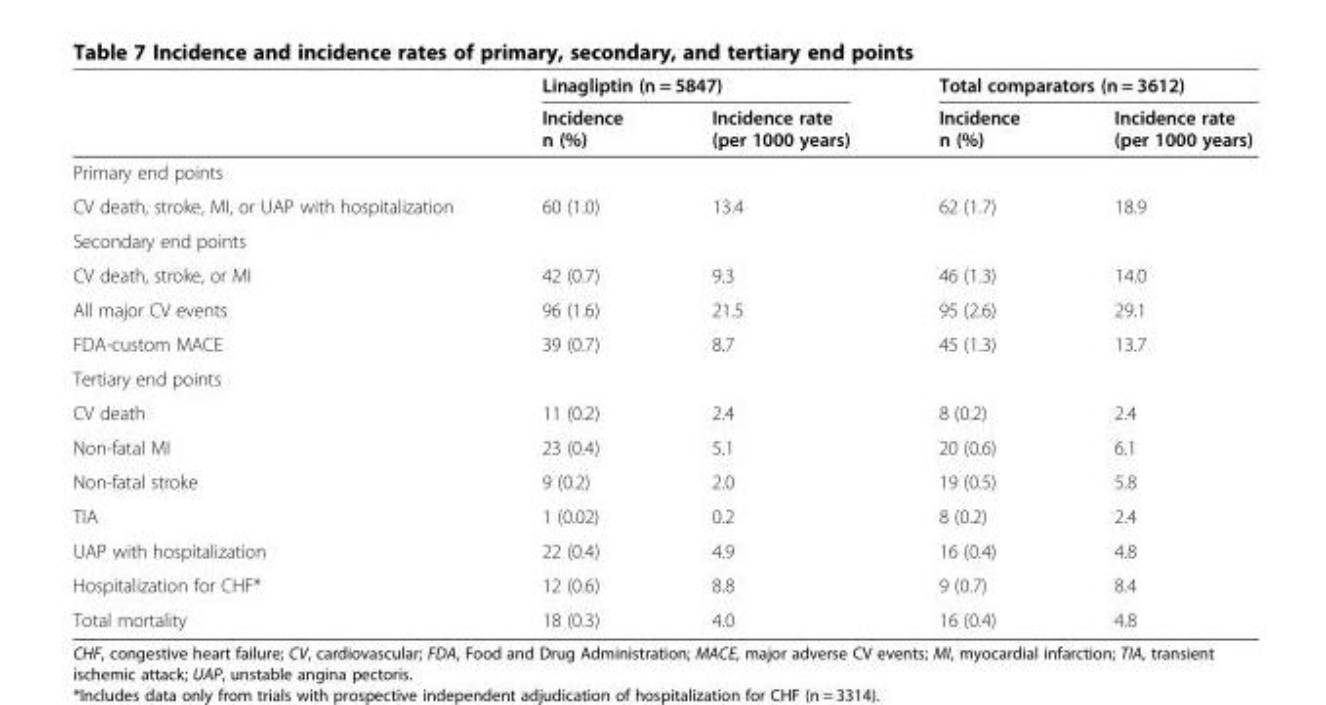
<table><thead><tr><td rowspan="2"></td><td colspan="2">Linagliptin (n = 5847)</td><td colspan="2">Total comparators (n = 3612)</td></tr><tr><td>Incidence n (%)</td><td>Incidence rate (per 1000 years)</td><td>Incidence n (%)</td><td>Incidence rate (per 1000 years)</td></tr></thead><tbody><tr><td colspan="5">Primary end points</td></tr><tr><td>CV death, stroke, MI, or UAP with hospitalization</td><td>60 (1.0)</td><td>13.4</td><td>62 (1.7)</td><td>18.9</td></tr><tr><td colspan="5">Secondary end points</td></tr><tr><td>CV death, stroke, or MI</td><td>42 (0.7)</td><td>9.3</td><td>46 (1.3)</td><td>14.0</td></tr><tr><td>All major CV events</td><td>96 (1.6)</td><td>21.5</td><td>95 (2.6)</td><td>29.1</td></tr><tr><td>FDA-custom MACE</td><td>39 (0.7)</td><td>8.7</td><td>45 (1.3)</td><td>13.7</td></tr><tr><td colspan="5">Tertiary end points</td></tr><tr><td>CV death</td><td>11 (0.2)</td><td>2.4</td><td>8 (0.2)</td><td>2.4</td></tr><tr><td>Non-fatal MI</td><td>23 (0.4)</td><td>5.1</td><td>20 (0.6)</td><td>6.1</td></tr><tr><td>Non-fatal stroke</td><td>9 (0.2)</td><td>2.0</td><td>19 (0.5)</td><td>5.8</td></tr><tr><td>TIA</td><td>1 (0.02)</td><td>0.2</td><td>8 (0.2)</td><td>2.4</td></tr><tr><td>UAP with hospitalization</td><td>22 (0.4)</td><td>4.9</td><td>16 (0.4)</td><td>4.8</td></tr><tr><td>Hospitalization for CHF*</td><td>12 (0.6)</td><td>8.8</td><td>9 (0.7)</td><td>8.4</td></tr><tr><td>Total mortality</td><td>18 (0.3)</td><td>4.0</td><td>16 (0.4)</td><td>4.8</td></tr></tbody></table>